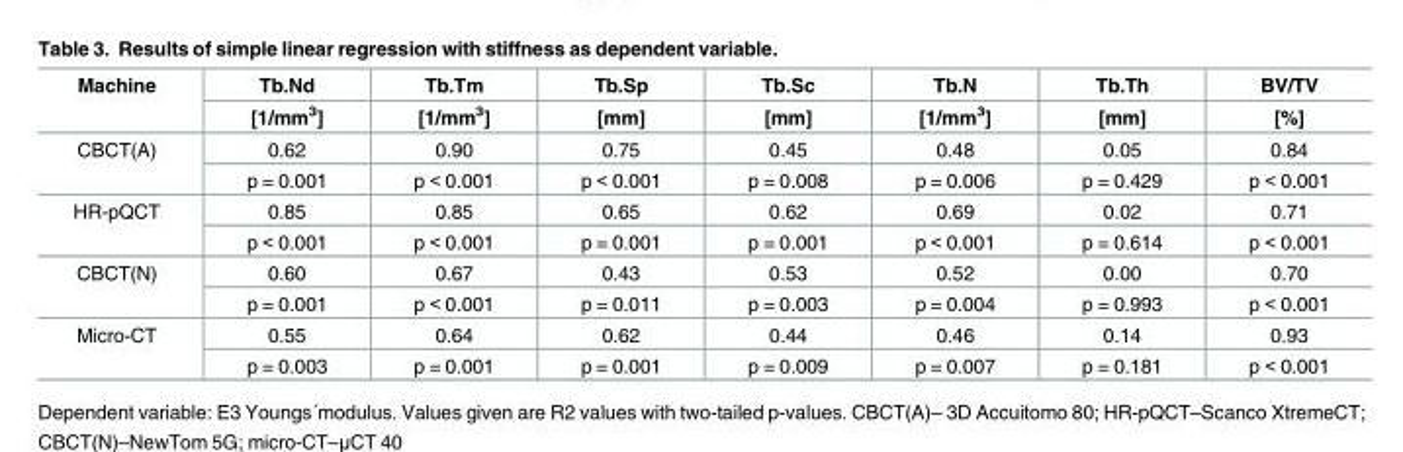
<table><thead><tr><td rowspan="2">Machine</td><td rowspan="2">Tb.Nd [1/mm<sup>3</sup>]</td><td rowspan="2">Tb.Tm [1/mm<sup>3</sup>]</td><td rowspan="2">Tb.Sp [mm]</td><td rowspan="2">Tb.Sc [mm]</td><td rowspan="2">Tb.N [1/mm<sup>3</sup>]</td><td rowspan="2">Tb.Th [mm]</td><td rowspan="2">BV/TV [%]</td></tr><tr></tr></thead><tbody><tr><td rowspan="2">CBCT(A)</td><td>0.62</td><td>0.90</td><td>0.75</td><td>0.45</td><td>0.48</td><td>0.05</td><td>0.84</td></tr><tr><td>p = 0.001</td><td>p &lt; 0.001</td><td>p &lt; 0.001</td><td>p = 0.008</td><td>p = 0.006</td><td>p = 0.429</td><td>p &lt; 0.001</td></tr><tr><td rowspan="2">HR-pQCT</td><td>0.85</td><td>0.85</td><td>0.65</td><td>0.62</td><td>0.69</td><td>0.02</td><td>0.71</td></tr><tr><td>p &lt; 0.001</td><td>p &lt; 0.001</td><td>p = 0.001</td><td>p = 0.001</td><td>p &lt; 0.001</td><td>p = 0.614</td><td>p &lt; 0.001</td></tr><tr><td rowspan="2">CBCT(N)</td><td>0.60</td><td>0.67</td><td>0.43</td><td>0.53</td><td>0.52</td><td>0.00</td><td>0.70</td></tr><tr><td>p = 0.001</td><td>p &lt; 0.001</td><td>p = 0.011</td><td>p = 0.003</td><td>p = 0.004</td><td>p = 0.993</td><td>p &lt; 0.001</td></tr><tr><td rowspan="2">Micro-CT</td><td>0.55</td><td>0.64</td><td>0.62</td><td>0.44</td><td>0.46</td><td>0.14</td><td>0.93</td></tr><tr><td>p = 0.003</td><td>p = 0.001</td><td>p = 0.001</td><td>p = 0.009</td><td>p = 0.007</td><td>p = 0.181</td><td>p &lt; 0.001</td></tr></tbody></table>